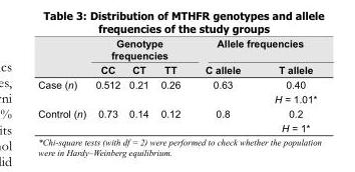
<table><thead><tr><td rowspan="2"></td><td colspan="3">Genotype frequencies</td><td colspan="2">Allele frequencies</td></tr><tr><td>CC</td><td>CT</td><td>TT</td><td>C allele</td><td>T allele</td></tr></thead><tbody><tr><td rowspan="2">Case (n)</td><td>0.512</td><td>0.21</td><td>0.26</td><td>0.63</td><td>0.40</td></tr><tr><td></td><td></td><td></td><td></td><td>H = 1.01*</td></tr><tr><td rowspan="2">Control (n)</td><td>0.73</td><td>0.14</td><td>0.12</td><td>0.8</td><td>0.2</td></tr><tr><td></td><td></td><td></td><td></td><td>H = 1*</td></tr></tbody></table>